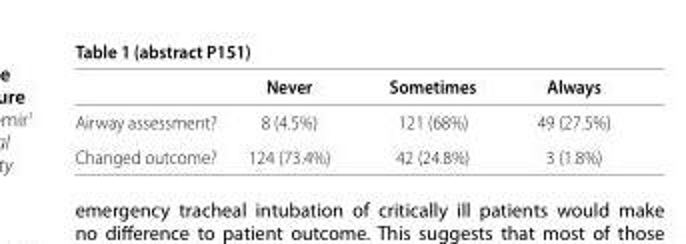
<table><thead><tr><td></td><td>Never</td><td>Sometimes</td><td>Always</td></tr></thead><tbody><tr><td>Airway assessment?</td><td>8 (4.5%)</td><td>121 (68%)</td><td>49 (27.5%)</td></tr><tr><td>Changed outcome?</td><td>124 (73.4%)</td><td>42 (24.8%)</td><td>3 (1.8%)</td></tr></tbody></table>